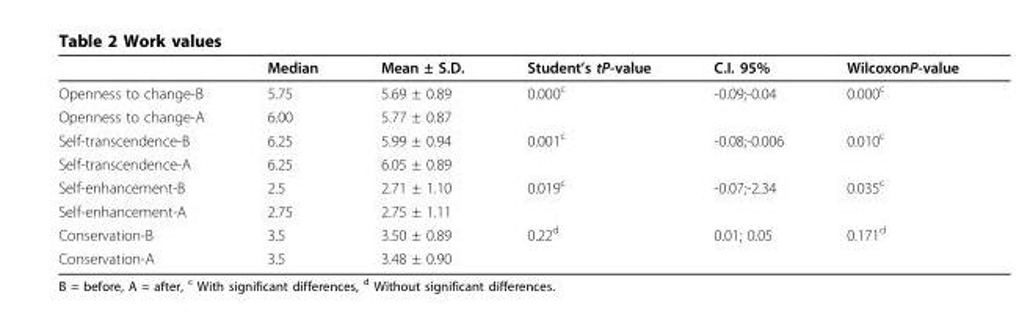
<table><thead><tr><td></td><td>Median</td><td>Mean ± S.D.</td><td>Student’s tP-value</td><td>C.I. 95%</td><td>WilcoxonP-value</td></tr></thead><tbody><tr><td>Openness to change-B</td><td>5.75</td><td>5.69 ± 0.89</td><td>0.000<sup>c</sup></td><td>-0.09;-0.04</td><td>0.000<sup>c</sup></td></tr><tr><td>Openness to change-A</td><td>6.00</td><td>5.77 ± 0.87</td><td></td><td></td><td></td></tr><tr><td>Self-transcendence-B</td><td>6.25</td><td>5.99 ± 0.94</td><td>0.001<sup>c</sup></td><td>-0.08;-0.006</td><td>0.010<sup>c</sup></td></tr><tr><td>Self-transcendence-A</td><td>6.25</td><td>6.05 ± 0.89</td><td></td><td></td><td></td></tr><tr><td>Self-enhancement-B</td><td>2.5</td><td>2.71 ± 1.10</td><td>0.019<sup>c</sup></td><td>-0.07;-2.34</td><td>0.035<sup>c</sup></td></tr><tr><td>Self-enhancement-A</td><td>2.75</td><td>2.75 ± 1.11</td><td></td><td></td><td></td></tr><tr><td>Conservation-B</td><td>3.5</td><td>3.50 ± 0.89</td><td>0.22<sup>d</sup></td><td>0.01; 0.05</td><td>0.171<sup>d</sup></td></tr><tr><td>Conservation-A</td><td>3.5</td><td>3.48 ± 0.90</td><td></td><td></td><td></td></tr></tbody></table>